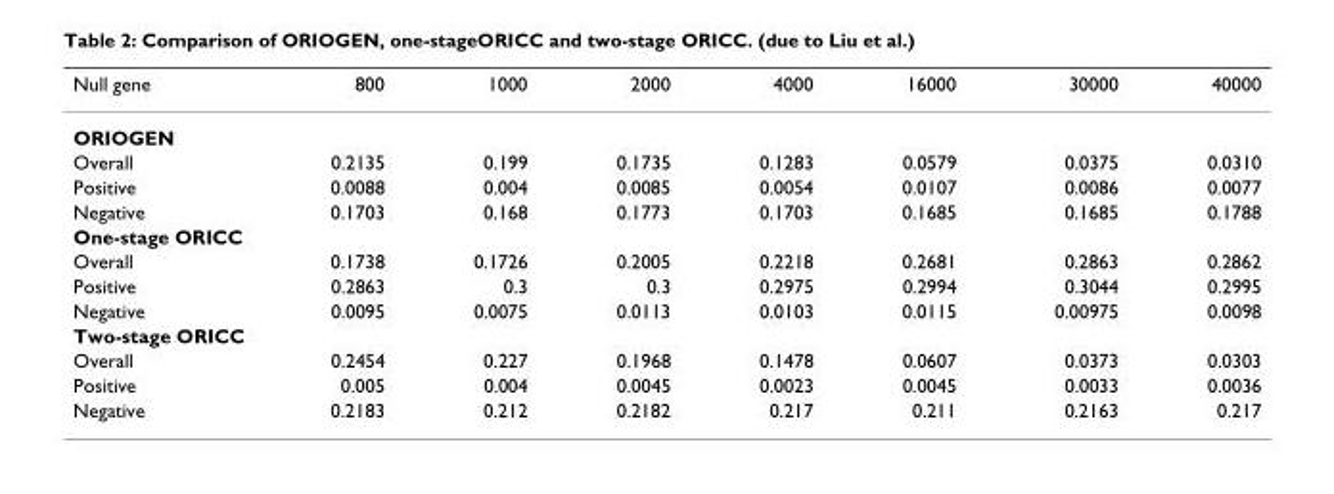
<table><thead><tr><td>Null gene</td><td>800</td><td>1000</td><td>2000</td><td>4000</td><td>16000</td><td>30000</td><td>40000</td></tr></thead><tbody><tr><td colspan="8">ORIOGEN</td></tr><tr><td>Overall</td><td>0.2135</td><td>0.199</td><td>0.1735</td><td>0.1283</td><td>0.0579</td><td>0.0375</td><td>0.0310</td></tr><tr><td>Positive</td><td>0.0088</td><td>0.004</td><td>0.0085</td><td>0.0054</td><td>0.0107</td><td>0.0086</td><td>0.0077</td></tr><tr><td>Negative</td><td>0.1703</td><td>0.168</td><td>0.1773</td><td>0.1703</td><td>0.1685</td><td>0.1685</td><td>0.1788</td></tr><tr><td colspan="8">One-stage ORICC</td></tr><tr><td>Overall</td><td>0.1738</td><td>0.1726</td><td>0.2005</td><td>0.2218</td><td>0.2681</td><td>0.2863</td><td>0.2862</td></tr><tr><td>Positive</td><td>0.2863</td><td>0.3</td><td>0.3</td><td>0.2975</td><td>0.2994</td><td>0.3044</td><td>0.2995</td></tr><tr><td>Negative</td><td>0.0095</td><td>0.0075</td><td>0.0113</td><td>0.0103</td><td>0.0115</td><td>0.00975</td><td>0.0098</td></tr><tr><td colspan="8">Two-stage ORICC</td></tr><tr><td>Overall</td><td>0.2454</td><td>0.227</td><td>0.1968</td><td>0.1478</td><td>0.0607</td><td>0.0373</td><td>0.0303</td></tr><tr><td>Positive</td><td>0.005</td><td>0.004</td><td>0.0045</td><td>0.0023</td><td>0.0045</td><td>0.0033</td><td>0.0036</td></tr><tr><td>Negative</td><td>0.2183</td><td>0.212</td><td>0.2182</td><td>0.217</td><td>0.211</td><td>0.2163</td><td>0.217</td></tr></tbody></table>